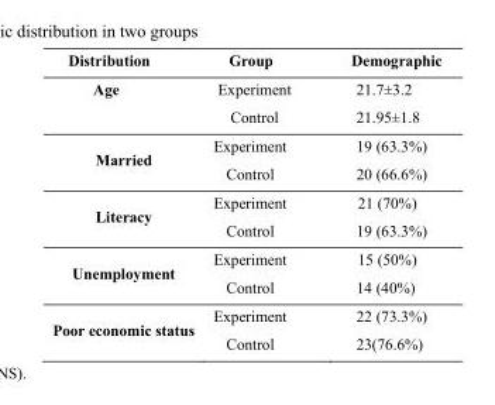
<table><thead><tr><td>Distribution</td><td>Group</td><td>Demographic</td></tr></thead><tbody><tr><td rowspan="2">Age</td><td>Experiment</td><td>21.7±3.2</td></tr><tr><td>Control</td><td>21.95±1.8</td></tr><tr><td rowspan="2">Married</td><td>Experiment</td><td>19 (63.3%)</td></tr><tr><td>Control</td><td>20 (66.6%)</td></tr><tr><td rowspan="2">Literacy</td><td>Experiment</td><td>21 (70%)</td></tr><tr><td>Control</td><td>19 (63.3%)</td></tr><tr><td rowspan="2">Unemployment</td><td>Experiment</td><td>15 (50%)</td></tr><tr><td>Control</td><td>14 (40%)</td></tr><tr><td rowspan="2">Poor economic status</td><td>Experiment</td><td>22 (73.3%)</td></tr><tr><td>Control</td><td>23(76.6%)</td></tr></tbody></table>